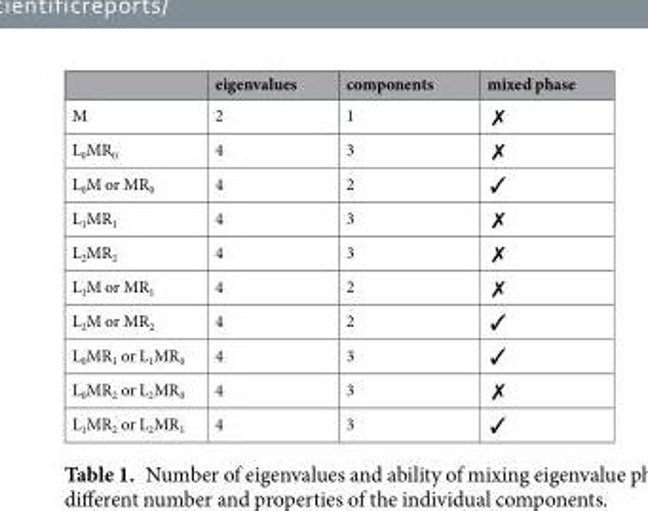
<table><thead><tr><td></td><td>eigenvalues</td><td>components</td><td>mixed phase</td></tr></thead><tbody><tr><td>M</td><td>2</td><td>1</td><td>✗</td></tr><tr><td>L<sub>0</sub>MR<sub>0</sub></td><td>4</td><td>3</td><td>✗</td></tr><tr><td>L<sub>0</sub>M or MR<sub>0</sub></td><td>4</td><td>2</td><td>✓</td></tr><tr><td>L<sub>1</sub>MR<sub>1</sub></td><td>4</td><td>3</td><td>✗</td></tr><tr><td>L<sub>2</sub>MR<sub>2</sub></td><td>4</td><td>3</td><td>✗</td></tr><tr><td>L<sub>1</sub>M or MR<sub>1</sub></td><td>4</td><td>2</td><td>✗</td></tr><tr><td>L<sub>2</sub>M or MR<sub>2</sub></td><td>4</td><td>2</td><td>✓</td></tr><tr><td>L<sub>0</sub>MR<sub>1</sub> or L<sub>1</sub>MR<sub>0</sub></td><td>4</td><td>3</td><td>✓</td></tr><tr><td>L<sub>0</sub>MR<sub>2</sub> or L<sub>2</sub>MR<sub>0</sub></td><td>4</td><td>3</td><td>✗</td></tr><tr><td>L<sub>1</sub>MR<sub>2</sub> or L<sub>2</sub>MR<sub>1</sub></td><td>4</td><td>3</td><td>✓</td></tr></tbody></table>